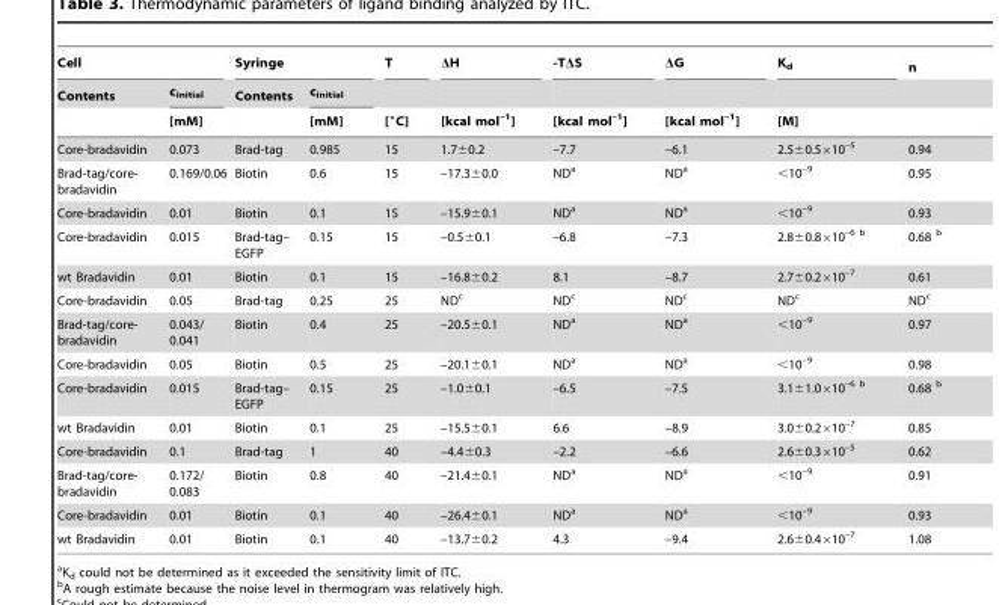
<table><thead><tr><td colspan="2">Cell</td><td colspan="2">Syringe</td><td rowspan="3">T [°C]</td><td rowspan="3">ΔH [kcal mol<sup>–1</sup>]</td><td rowspan="3">-TΔS [kcal mol<sup>–1</sup>]</td><td rowspan="3">ΔG [kcal mol<sup>–1</sup>]</td><td rowspan="3">K<sub>d</sub> [M]</td><td rowspan="3">n</td></tr><tr><td rowspan="2">Contents</td><td rowspan="2">c<sub>initial</sub> [mM]</td><td rowspan="2">Contents</td><td rowspan="2">c<sub>initial</sub> [mM]</td></tr><tr></tr></thead><tbody><tr><td>Core-bradavidin</td><td>0.073</td><td>Brad-tag</td><td>0.985</td><td>15</td><td>1.7±0.2</td><td>–7.7</td><td>–6.1</td><td>2.5±0.5×10<sup>–5</sup></td><td>0.94</td></tr><tr><td>Brad-tag/core- bradavidin</td><td>0.169/0.06</td><td>Biotin</td><td>0.6</td><td>15</td><td>–17.3±0.0</td><td>ND<sup>a</sup></td><td>ND<sup>a</sup></td><td>&lt;10<sup>–9</sup></td><td>0.95</td></tr><tr><td>Core-bradavidin</td><td>0.01</td><td>Biotin</td><td>0.1</td><td>15</td><td>–15.9±0.1</td><td>ND<sup>a</sup></td><td>ND<sup>a</sup></td><td>&lt;10<sup>–9</sup></td><td>0.93</td></tr><tr><td>Core-bradavidin</td><td>0.015</td><td>Brad-tag– EGFP</td><td>0.15</td><td>15</td><td>–0.5±0.1</td><td>–6.8</td><td>–7.3</td><td>2.8±0.8×10<sup>–6</sup> b</td><td>0.68 b</td></tr><tr><td>wt Bradavidin</td><td>0.01</td><td>Biotin</td><td>0.1</td><td>15</td><td>–16.8±0.2</td><td>8.1</td><td>–8.7</td><td>2.7±0.2×10<sup>–7</sup></td><td>0.61</td></tr><tr><td>Core-bradavidin</td><td>0.05</td><td>Brad-tag</td><td>0.25</td><td>25</td><td>ND<sup>c</sup></td><td>ND<sup>c</sup></td><td>ND<sup>c</sup></td><td>ND<sup>c</sup></td><td>ND<sup>c</sup></td></tr><tr><td>Brad-tag/core- bradavidin</td><td>0.043/ 0.041</td><td>Biotin</td><td>0.4</td><td>25</td><td>–20.5±0.1</td><td>ND<sup>a</sup></td><td>ND<sup>a</sup></td><td>&lt;10<sup>–9</sup></td><td>0.97</td></tr><tr><td>Core-bradavidin</td><td>0.05</td><td>Biotin</td><td>0.5</td><td>25</td><td>–20.1±0.1</td><td>ND<sup>a</sup></td><td>ND<sup>a</sup></td><td>&lt;10<sup>–9</sup></td><td>0.98</td></tr><tr><td>Core-bradavidin</td><td>0.015</td><td>Brad-tag– EGFP</td><td>0.15</td><td>25</td><td>–1.0±0.1</td><td>–6.5</td><td>–7.5</td><td>3.1±1.0×10<sup>–6</sup> b</td><td>0.68 b</td></tr><tr><td>wt Bradavidin</td><td>0.01</td><td>Biotin</td><td>0.1</td><td>25</td><td>–15.5±0.1</td><td>6.6</td><td>–8.9</td><td>3.0±0.2×10<sup>–7</sup></td><td>0.85</td></tr><tr><td>Core-bradavidin</td><td>0.1</td><td>Brad-tag</td><td>1</td><td>40</td><td>–4.4±0.3</td><td>–2.2</td><td>–6.6</td><td>2.6±0.3×10<sup>–5</sup></td><td>0.62</td></tr><tr><td>Brad-tag/core- bradavidin</td><td>0.172/ 0.083</td><td>Biotin</td><td>0.8</td><td>40</td><td>–21.4±0.1</td><td>ND<sup>a</sup></td><td>ND<sup>a</sup></td><td>&lt;10<sup>–9</sup></td><td>0.91</td></tr><tr><td>Core-bradavidin</td><td>0.01</td><td>Biotin</td><td>0.1</td><td>40</td><td>–26.4±0.1</td><td>ND<sup>a</sup></td><td>ND<sup>a</sup></td><td>&lt;10<sup>–9</sup></td><td>0.93</td></tr><tr><td>wt Bradavidin</td><td>0.01</td><td>Biotin</td><td>0.1</td><td>40</td><td>–13.7±0.2</td><td>4.3</td><td>–9.4</td><td>2.6±0.4×10<sup>–7</sup></td><td>1.08</td></tr></tbody></table>